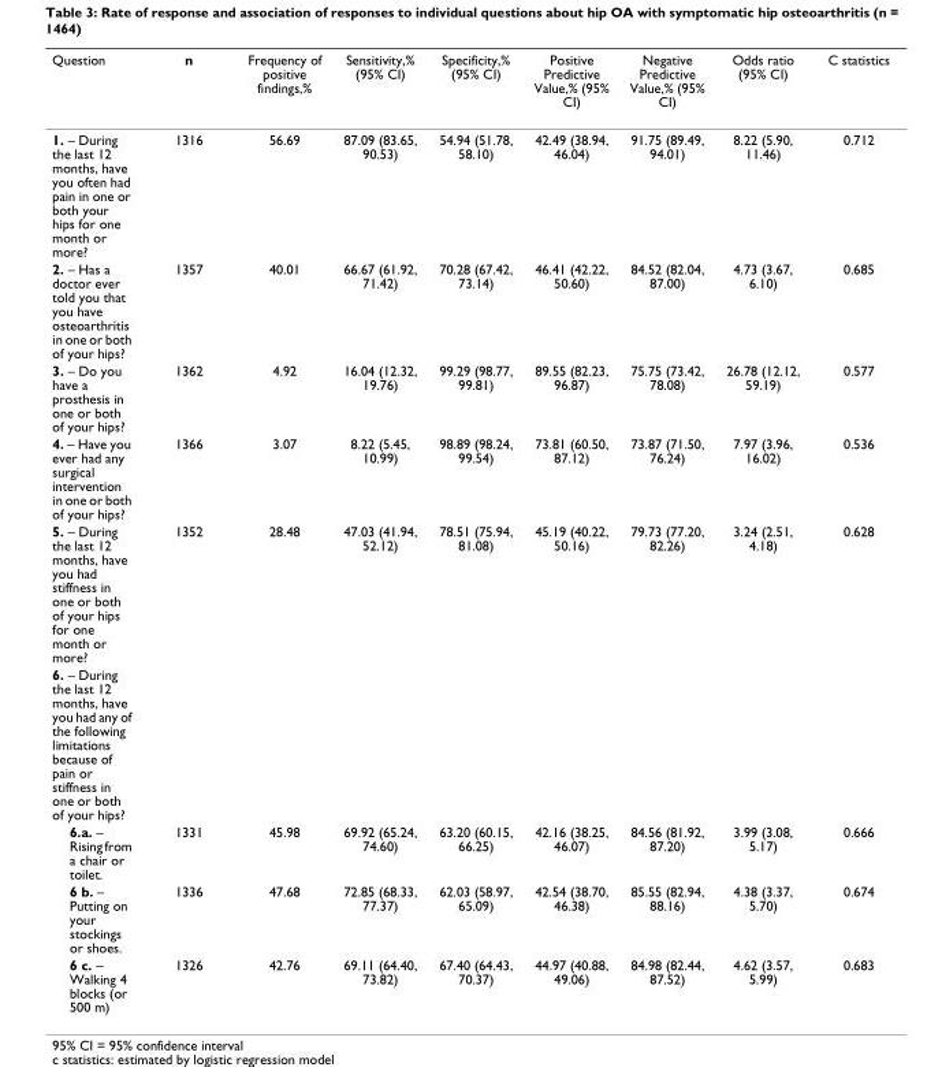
<table><thead><tr><td>Question</td><td>n</td><td>Frequency of positive findings,%</td><td>Sensitivity,% (95% CI)</td><td>Specificity,% (95% CI)</td><td>Positive Predictive Value,% (95% CI)</td><td>Negative Predictive Value,% (95% CI)</td><td>Odds ratio (95% CI)</td><td>C statistics</td></tr></thead><tbody><tr><td>1. – During the last 12 months, have you often had pain in one or both your hips for one month or more?</td><td>1316</td><td>56.69</td><td>87.09 (83.65, 90.53)</td><td>54.94 (51.78, 58.10)</td><td>42.49 (38.94, 46.04)</td><td>91.75 (89.49, 94.01)</td><td>8.22 (5.90, 11.46)</td><td>0.712</td></tr><tr><td>2. – Has a doctor ever told you that you have osteoarthritis in one or both of your hips?</td><td>1357</td><td>40.01</td><td>66.67 (61.92, 71.42)</td><td>70.28 (67.42, 73.14)</td><td>46.41 (42.22, 50.60)</td><td>84.52 (82.04, 87.00)</td><td>4.73 (3.67, 6.10)</td><td>0.685</td></tr><tr><td>3. – Do you have a prosthesis in one or both of your hips?</td><td>1362</td><td>4.92</td><td>16.04 (12.32, 19.76)</td><td>99.29 (98.77, 99.81)</td><td>89.55 (82.23, 96.87)</td><td>75.75 (73.42, 78.08)</td><td>26.78 (12.12, 59.19)</td><td>0.577</td></tr><tr><td>4. – Have you ever had any surgical intervention in one or both of your hips?</td><td>1366</td><td>3.07</td><td>8.22 (5.45, 10.99)</td><td>98.89 (98.24, 99.54)</td><td>73.81 (60.50, 87.12)</td><td>73.87 (71.50, 76.24)</td><td>7.97 (3.96, 16.02)</td><td>0.536</td></tr><tr><td>5. – During the last 12 months, have you had stiffness in one or both of your hips for one month or more?</td><td>1352</td><td>28.48</td><td>47.03 (41.94, 52.12)</td><td>78.51 (75.94, 81.08)</td><td>45.19 (40.22, 50.16)</td><td>79.73 (77.20, 82.26)</td><td>3.24 (2.51, 4.18)</td><td>0.628</td></tr><tr><td colspan="9">6. – During the last 12 months, have you had any of the following limitations because of pain or stiffness in one or both of your hips?</td></tr><tr><td>6.a. – Rising from a chair or toilet.</td><td>1331</td><td>45.98</td><td>69.92 (65.24, 74.60)</td><td>63.20 (60.15, 66.25)</td><td>42.16 (38.25, 46.07)</td><td>84.56 (81.92, 87.20)</td><td>3.99 (3.08, 5.17)</td><td>0.666</td></tr><tr><td>6 b. – Putting on your stockings or shoes.</td><td>1336</td><td>47.68</td><td>72.85 (68.33, 77.37)</td><td>62.03 (58.97, 65.09)</td><td>42.54 (38.70, 46.38)</td><td>85.55 (82.94, 88.16)</td><td>4.38 (3.37, 5.70)</td><td>0.674</td></tr><tr><td>6 c. – Walking 4 blocks (or 500 m)</td><td>1326</td><td>42.76</td><td>69.11 (64.40, 73.82)</td><td>67.40 (64.43, 70.37)</td><td>44.97 (40.88, 49.06)</td><td>84.98 (82.44, 87.52)</td><td>4.62 (3.57, 5.99)</td><td>0.683</td></tr></tbody></table>